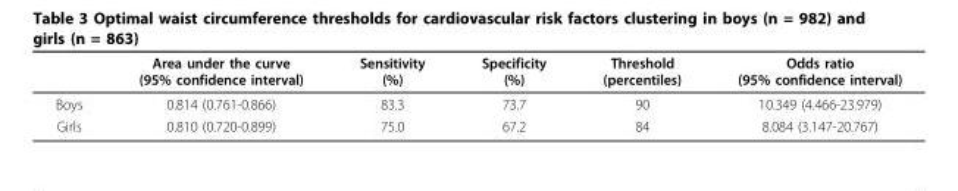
<table><thead><tr><td></td><td>Area under the curve (95% confidence interval)</td><td>Sensitivity (%)</td><td>Specificity (%)</td><td>Threshold (percentiles)</td><td>Odds ratio (95% confidence interval)</td></tr></thead><tbody><tr><td>Boys</td><td>0.814 (0.761-0.866)</td><td>83.3</td><td>73.7</td><td>90</td><td>10.349 (4.466-23.979)</td></tr><tr><td>Girls</td><td>0.810 (0.720-0.899)</td><td>75.0</td><td>67.2</td><td>84</td><td>8.084 (3.147-20.767)</td></tr></tbody></table>